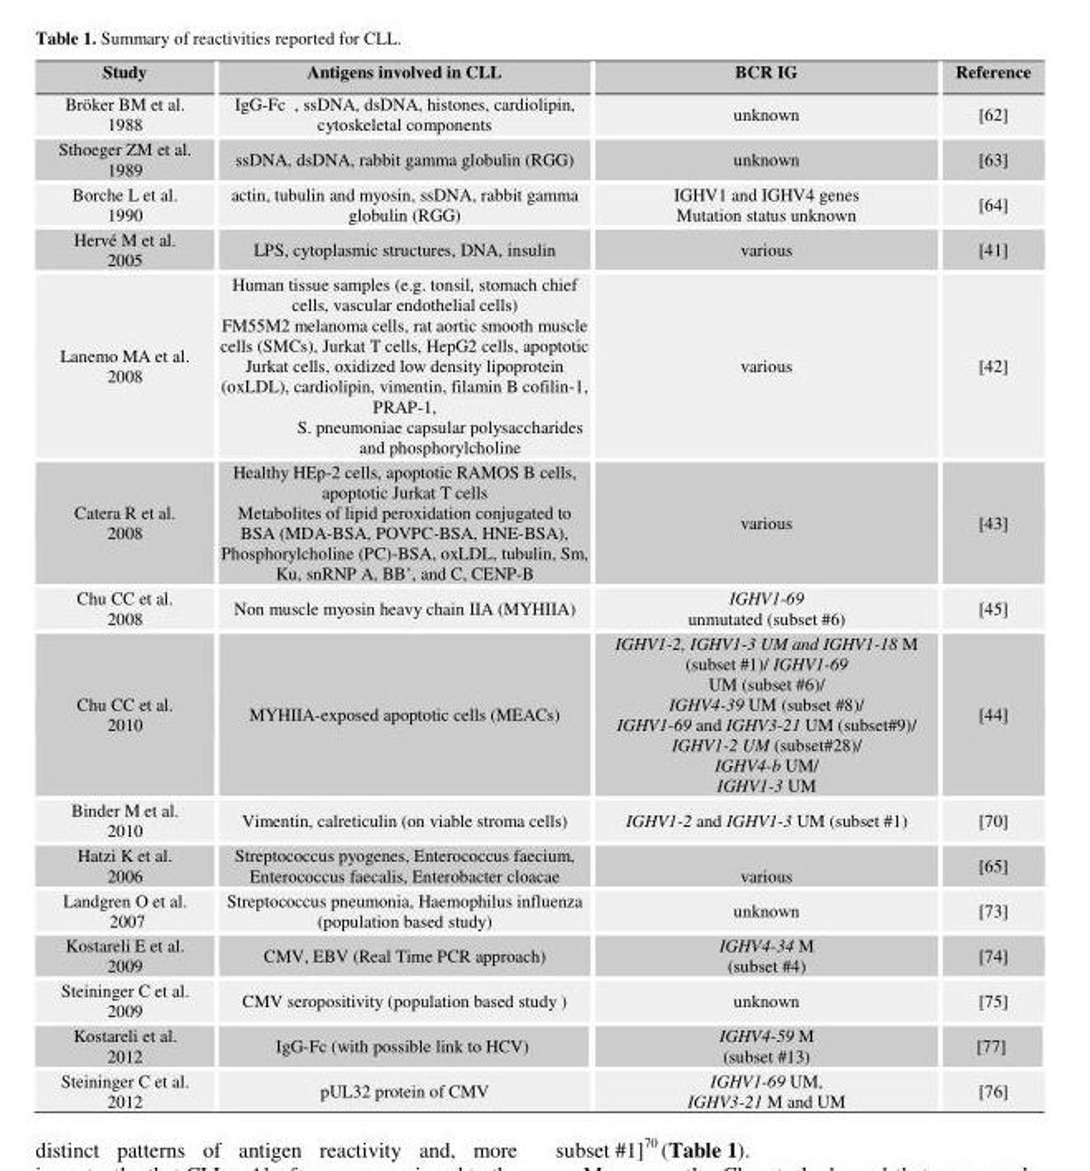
<table><thead><tr><td>Study</td><td>Antigens involved in CLL</td><td>BCR IG</td><td>Reference</td></tr></thead><tbody><tr><td>Bröker BM et al. 1988</td><td>IgG-Fc , ssDNA, dsDNA, histones, cardiolipin, cytoskeletal components</td><td>unknown</td><td>[62]</td></tr><tr><td>Sthoeger ZM et al. 1989</td><td>ssDNA, dsDNA, rabbit gamma globulin (RGG)</td><td>unknown</td><td>[63]</td></tr><tr><td>Borche L et al. 1990</td><td>actin, tubulin and myosin, ssDNA, rabbit gamma globulin (RGG)</td><td>IGHV1 and IGHV4 genes Mutation status unknown</td><td>[64]</td></tr><tr><td>Hervé M et al. 2005</td><td>LPS, cytoplasmic structures, DNA, insulin</td><td>various</td><td>[41]</td></tr><tr><td>Lanemo MA et al. 2008</td><td>Human tissue samples (e.g. tonsil, stomach chief cells, vascular endothelial cells) FM55M2 melanoma cells, rat aortic smooth muscle cells (SMCs), Jurkat T cells, HepG2 cells, apoptotic Jurkat cells, oxidized low density lipoprotein (oxLDL), cardiolipin, vimentin, filamin B cofilin-1, PRAP-1, S. pneumoniae capsular polysaccharides and phosphorylcholine</td><td>various</td><td>[42]</td></tr><tr><td>Catera R et al. 2008</td><td>Healthy HEp-2 cells, apoptotic RAMOS B cells, apoptotic Jurkat T cells Metabolites of lipid peroxidation conjugated to BSA (MDA-BSA, POVPC-BSA, HNE-BSA), Phosphorylcholine (PC)-BSA, oxLDL, tubulin, Sm, Ku, snRNP A, BB’, and C, CENP-B</td><td>various</td><td>[43]</td></tr><tr><td>Chu CC et al. 2008</td><td>Non muscle myosin heavy chain IIA (MYHIIA)</td><td>IGHV1-69 unmutated (subset #6)</td><td>[45]</td></tr><tr><td>Chu CC et al. 2010</td><td>MYHIIA-exposed apoptotic cells (MEACs)</td><td>IGHV1-2, IGHV1-3 UM and IGHV1-18 M (subset #1)/ IGHV1-69 UM (subset #6)/ IGHV4-39 UM (subset #8)/ IGHV1-69 and IGHV3-21 UM (subset#9)/ IGHV1-2 UM (subset#28)/ IGHV4-b UM/ IGHV1-3 UM</td><td>[44]</td></tr><tr><td>Binder M et al. 2010</td><td>Vimentin, calreticulin (on viable stroma cells)</td><td>IGHV1-2 and IGHV1-3 UM (subset #1)</td><td>[70]</td></tr><tr><td>Hatzi K et al. 2006</td><td>Streptococcus pyogenes, Enterococcus faecium, Enterococcus faecalis, Enterobacter cloacae</td><td>various</td><td>[65]</td></tr><tr><td>Landgren O et al. 2007</td><td>Streptococcus pneumonia, Haemophilus influenza (population based study)</td><td>unknown</td><td>[73]</td></tr><tr><td>Kostareli E et al. 2009</td><td>CMV, EBV (Real Time PCR approach)</td><td>IGHV4-34 M (subset #4)</td><td>[74]</td></tr><tr><td>Steininger C et al. 2009</td><td>CMV seropositivity (population based study )</td><td>unknown</td><td>[75]</td></tr><tr><td>Kostareli et al. 2012</td><td>IgG-Fc (with possible link to HCV)</td><td>IGHV4-59 M (subset #13)</td><td>[77]</td></tr><tr><td>Steininger C et al. 2012</td><td>pUL32 protein of CMV</td><td>IGHV1-69 UM, IGHV3-21 M and UM</td><td>[76]</td></tr></tbody></table>